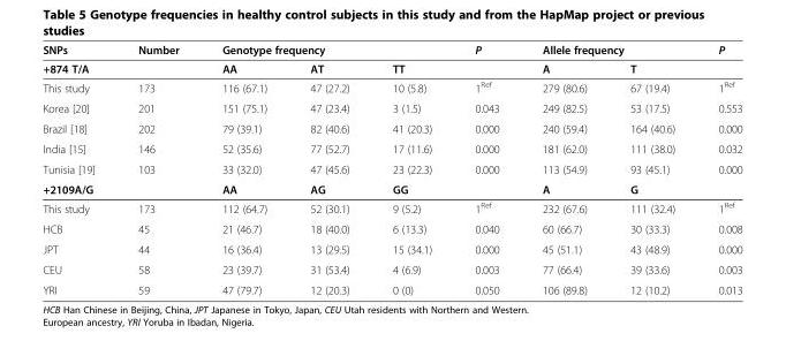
<table><thead><tr><td rowspan="2">SNPs +874 T/A</td><td rowspan="2">Number</td><td colspan="3">Genotype frequency</td><td rowspan="2">P</td><td colspan="2">Allele frequency</td><td rowspan="2">P</td></tr><tr><td>AA</td><td>AT</td><td>TT</td><td>A</td><td>T</td></tr></thead><tbody><tr><td>This study</td><td>173</td><td>116 (67.1)</td><td>47 (27.2)</td><td>10 (5.8)</td><td>1<sup>Ref</sup></td><td>279 (80.6)</td><td>67 (19.4)</td><td>1<sup>Ref</sup></td></tr><tr><td>Korea [20]</td><td>201</td><td>151 (75.1)</td><td>47 (23.4)</td><td>3 (1.5)</td><td>0.043</td><td>249 (82.5)</td><td>53 (17.5)</td><td>0.553</td></tr><tr><td>Brazil [18]</td><td>202</td><td>79 (39.1)</td><td>82 (40.6)</td><td>41 (20.3)</td><td>0.000</td><td>240 (59.4)</td><td>164 (40.6)</td><td>0.000</td></tr><tr><td>India [15]</td><td>146</td><td>52 (35.6)</td><td>77 (52.7)</td><td>17 (11.6)</td><td>0.000</td><td>181 (62.0)</td><td>111 (38.0)</td><td>0.032</td></tr><tr><td>Tunisia [19]</td><td>103</td><td>33 (32.0)</td><td>47 (45.6)</td><td>23 (22.3)</td><td>0.000</td><td>113 (54.9)</td><td>93 (45.1)</td><td>0.000</td></tr><tr><td>+2109A/G</td><td></td><td>AA</td><td>AG</td><td>GG</td><td></td><td>A</td><td>G</td><td></td></tr><tr><td>This study</td><td>173</td><td>112 (64.7)</td><td>52 (30.1)</td><td>9 (5.2)</td><td>1<sup>Ref</sup></td><td>232 (67.6)</td><td>111 (32.4)</td><td>1<sup>Ref</sup></td></tr><tr><td>HCB</td><td>45</td><td>21 (46.7)</td><td>18 (40.0)</td><td>6 (13.3)</td><td>0.040</td><td>60 (66.7)</td><td>30 (33.3)</td><td>0.008</td></tr><tr><td>JPT</td><td>44</td><td>16 (36.4)</td><td>13 (29.5)</td><td>15 (34.1)</td><td>0.000</td><td>45 (51.1)</td><td>43 (48.9)</td><td>0.000</td></tr><tr><td>CEU</td><td>58</td><td>23 (39.7)</td><td>31 (53.4)</td><td>4 (6.9)</td><td>0.003</td><td>77 (66.4)</td><td>39 (33.6)</td><td>0.003</td></tr><tr><td>YRI</td><td>59</td><td>47 (79.7)</td><td>12 (20.3)</td><td>0 (0)</td><td>0.050</td><td>106 (89.8)</td><td>12 (10.2)</td><td>0.013</td></tr></tbody></table>